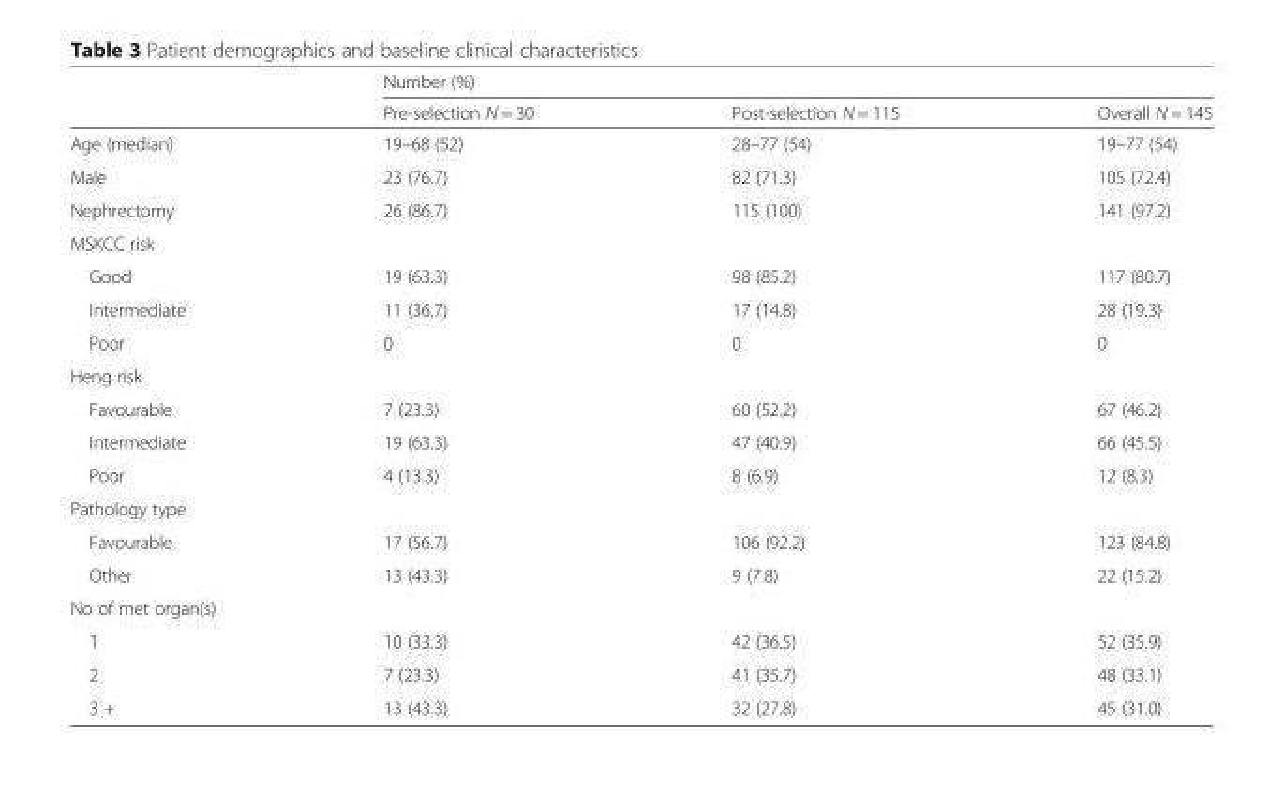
<table><thead><tr><td rowspan="2"></td><td colspan="3">Number (%)</td></tr><tr><td>Pre-selection N = 30</td><td>Post-selection N = 115</td><td>Overall N = 145</td></tr></thead><tbody><tr><td>Age (median)</td><td>19–68 (52)</td><td>28–77 (54)</td><td>19–77 (54)</td></tr><tr><td>Male</td><td>23 (76.7)</td><td>82 (71.3)</td><td>105 (72.4)</td></tr><tr><td>Nephrectomy</td><td>26 (86.7)</td><td>115 (100)</td><td>141 (97.2)</td></tr><tr><td colspan="4">MSKCC risk</td></tr><tr><td>Good</td><td>19 (63.3)</td><td>98 (85.2)</td><td>117 (80.7)</td></tr><tr><td>Intermediate</td><td>11 (36.7)</td><td>17 (14.8)</td><td>28 (19.3)</td></tr><tr><td>Poor</td><td>0</td><td>0</td><td>0</td></tr><tr><td colspan="4">Heng risk</td></tr><tr><td>Favourable</td><td>7 (23.3)</td><td>60 (52.2)</td><td>67 (46.2)</td></tr><tr><td>Intermediate</td><td>19 (63.3)</td><td>47 (40.9)</td><td>66 (45.5)</td></tr><tr><td>Poor</td><td>4 (13.3)</td><td>8 (6.9)</td><td>12 (8.3)</td></tr><tr><td colspan="4">Pathology type</td></tr><tr><td>Favourable</td><td>17 (56.7)</td><td>106 (92.2)</td><td>123 (84.8)</td></tr><tr><td>Other</td><td>13 (43.3)</td><td>9 (7.8)</td><td>22 (15.2)</td></tr><tr><td colspan="4">No of met organ(s)</td></tr><tr><td>1</td><td>10 (33.3)</td><td>42 (36.5)</td><td>52 (35.9)</td></tr><tr><td>2</td><td>7 (23.3)</td><td>41 (35.7)</td><td>48 (33.1)</td></tr><tr><td>3 +</td><td>13 (43.3)</td><td>32 (27.8)</td><td>45 (31.0)</td></tr></tbody></table>